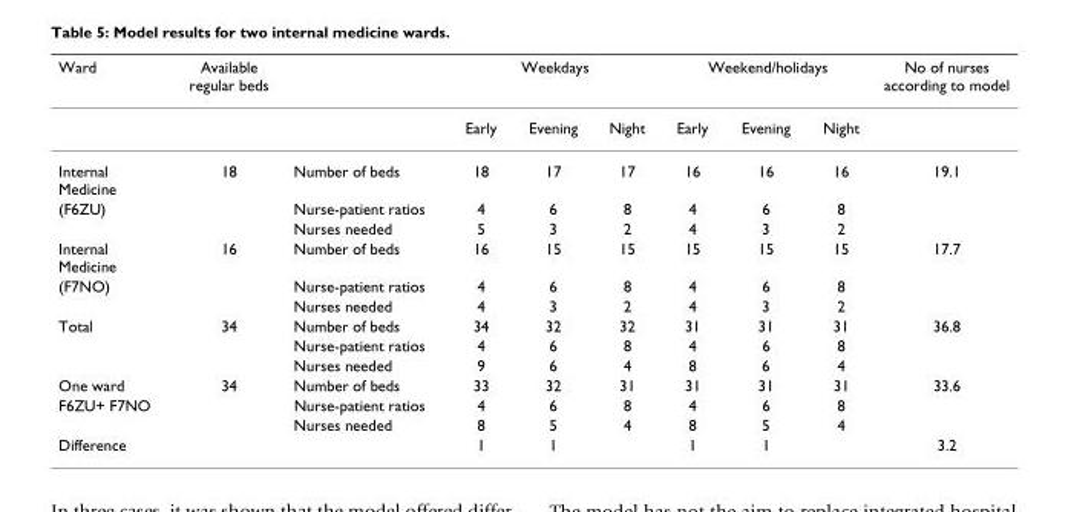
<table><thead><tr><td rowspan="2">Ward</td><td rowspan="2">Available regular beds</td><td rowspan="2"></td><td colspan="3">Weekdays</td><td colspan="3">Weekend/holidays</td><td rowspan="2">No of nurses according to model</td></tr><tr><td>Early</td><td>Evening</td><td>Night</td><td>Early</td><td>Evening</td><td>Night</td></tr></thead><tbody><tr><td>Internal Medicine</td><td>18</td><td>Number of beds</td><td>18</td><td>17</td><td>17</td><td>16</td><td>16</td><td>16</td><td>19.1</td></tr><tr><td rowspan="2">(F6ZU)</td><td></td><td>Nurse-patient ratios</td><td>4</td><td>6</td><td>8</td><td>4</td><td>6</td><td>8</td><td></td></tr><tr><td></td><td>Nurses needed</td><td>5</td><td>3</td><td>2</td><td>4</td><td>3</td><td>2</td><td></td></tr><tr><td>Internal Medicine</td><td>16</td><td>Number of beds</td><td>16</td><td>15</td><td>15</td><td>15</td><td>15</td><td>15</td><td>17.7</td></tr><tr><td rowspan="2">(F7NO)</td><td></td><td>Nurse-patient ratios</td><td>4</td><td>6</td><td>8</td><td>4</td><td>6</td><td>8</td><td></td></tr><tr><td></td><td>Nurses needed</td><td>4</td><td>3</td><td>2</td><td>4</td><td>3</td><td>2</td><td></td></tr><tr><td rowspan="3">Total</td><td>34</td><td>Number of beds</td><td>34</td><td>32</td><td>32</td><td>31</td><td>31</td><td>31</td><td>36.8</td></tr><tr><td></td><td>Nurse-patient ratios</td><td>4</td><td>6</td><td>8</td><td>4</td><td>6</td><td>8</td><td></td></tr><tr><td></td><td>Nurses needed</td><td>9</td><td>6</td><td>4</td><td>8</td><td>6</td><td>4</td><td></td></tr><tr><td>One ward</td><td>34</td><td>Number of beds</td><td>33</td><td>32</td><td>31</td><td>31</td><td>31</td><td>31</td><td>33.6</td></tr><tr><td rowspan="2">F6ZU+ F7NO</td><td></td><td>Nurse-patient ratios</td><td>4</td><td>6</td><td>8</td><td>4</td><td>6</td><td>8</td><td></td></tr><tr><td></td><td>Nurses needed</td><td>8</td><td>5</td><td>4</td><td>8</td><td>5</td><td>4</td><td></td></tr><tr><td>Difference</td><td></td><td></td><td>1</td><td>1</td><td></td><td>1</td><td>1</td><td></td><td>3.2</td></tr></tbody></table>